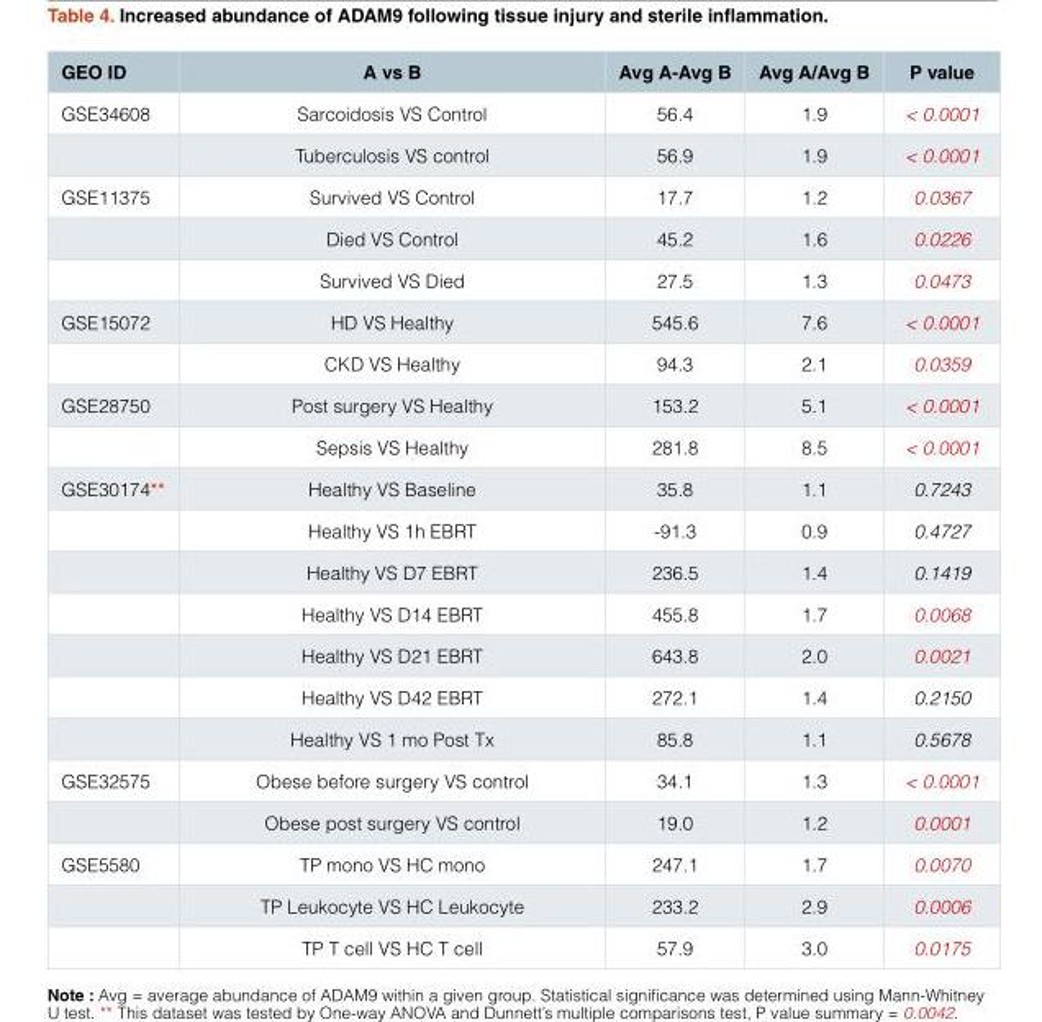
<table><thead><tr><td>GEO ID</td><td>A vs B</td><td>Avg A-Avg B</td><td>Avg A/Avg B</td><td>P value</td></tr></thead><tbody><tr><td rowspan="2">GSE34608</td><td>Sarcoidosis VS Control</td><td>56.4</td><td>1.9</td><td>&lt; 0.0001</td></tr><tr><td>Tuberculosis VS control</td><td>56.9</td><td>1.9</td><td>&lt; 0.0001</td></tr><tr><td rowspan="3">GSE11375</td><td>Survived VS Control</td><td>17.7</td><td>1.2</td><td>0.0367</td></tr><tr><td>Died VS Control</td><td>45.2</td><td>1.6</td><td>0.0226</td></tr><tr><td>Survived VS Died</td><td>27.5</td><td>1.3</td><td>0.0473</td></tr><tr><td rowspan="2">GSE15072</td><td>HD VS Healthy</td><td>545.6</td><td>7.6</td><td>&lt; 0.0001</td></tr><tr><td>CKD VS Healthy</td><td>94.3</td><td>2.1</td><td>0.0359</td></tr><tr><td rowspan="2">GSE28750</td><td>Post surgery VS Healthy</td><td>153.2</td><td>5.1</td><td>&lt; 0.0001</td></tr><tr><td>Sepsis VS Healthy</td><td>281.8</td><td>8.5</td><td>&lt; 0.0001</td></tr><tr><td rowspan="7">GSE30174**</td><td>Healthy VS Baseline</td><td>35.8</td><td>1.1</td><td>0.7243</td></tr><tr><td>Healthy VS 1h EBRT</td><td>-91.3</td><td>0.9</td><td>0.4727</td></tr><tr><td>Healthy VS D7 EBRT</td><td>236.5</td><td>1.4</td><td>0.1419</td></tr><tr><td>Healthy VS D14 EBRT</td><td>455.8</td><td>1.7</td><td>0.0068</td></tr><tr><td>Healthy VS D21 EBRT</td><td>643.8</td><td>2.0</td><td>0.0021</td></tr><tr><td>Healthy VS D42 EBRT</td><td>272.1</td><td>1.4</td><td>0.2150</td></tr><tr><td>Healthy VS 1 mo Post Tx</td><td>85.8</td><td>1.1</td><td>0.5678</td></tr><tr><td rowspan="2">GSE32575</td><td>Obese before surgery VS control</td><td>34.1</td><td>1.3</td><td>&lt; 0.0001</td></tr><tr><td>Obese post surgery VS control</td><td>19.0</td><td>1.2</td><td>0.0001</td></tr><tr><td rowspan="3">GSE5580</td><td>TP mono VS HC mono</td><td>247.1</td><td>1.7</td><td>0.0070</td></tr><tr><td>TP Leukocyte VS HC Leukocyte</td><td>233.2</td><td>2.9</td><td>0.0006</td></tr><tr><td>TP T cell VS HC T cell</td><td>57.9</td><td>3.0</td><td>0.0175</td></tr></tbody></table>